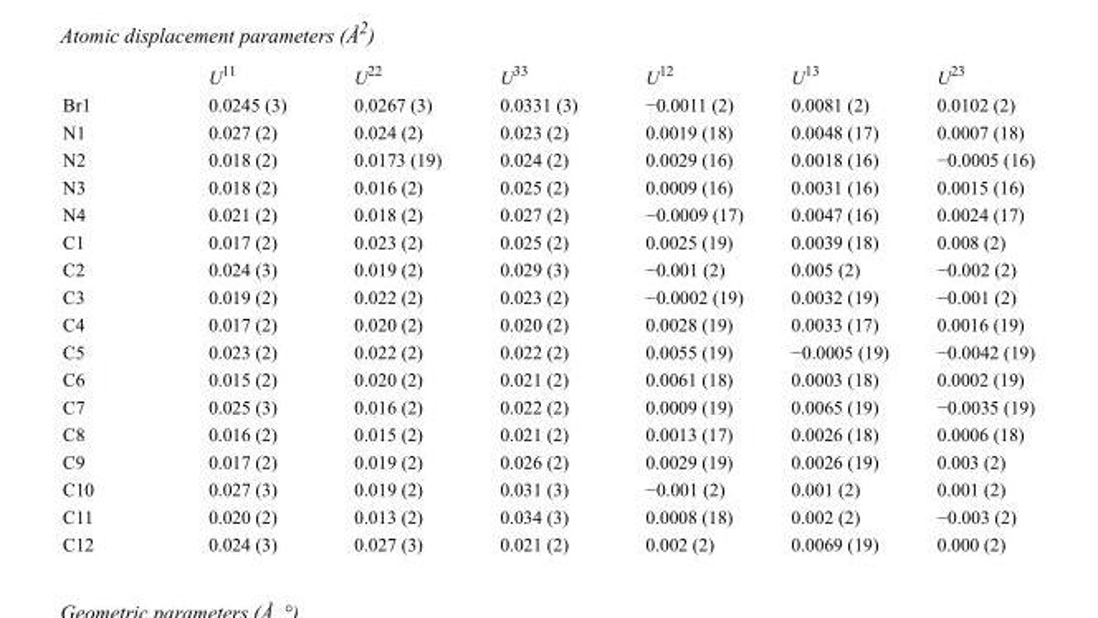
<table><thead><tr><td></td><td>U<sup>11</sup></td><td>U<sup>22</sup></td><td>U<sup>33</sup></td><td>U<sup>12</sup></td><td>U<sup>13</sup></td><td>U<sup>23</sup></td></tr></thead><tbody><tr><td>Br1</td><td>0.0245 (3)</td><td>0.0267 (3)</td><td>0.0331 (3)</td><td>−0.0011 (2)</td><td>0.0081 (2)</td><td>0.0102 (2)</td></tr><tr><td>N1</td><td>0.027 (2)</td><td>0.024 (2)</td><td>0.023 (2)</td><td>0.0019 (18)</td><td>0.0048 (17)</td><td>0.0007 (18)</td></tr><tr><td>N2</td><td>0.018 (2)</td><td>0.0173 (19)</td><td>0.024 (2)</td><td>0.0029 (16)</td><td>0.0018 (16)</td><td>−0.0005 (16)</td></tr><tr><td>N3</td><td>0.018 (2)</td><td>0.016 (2)</td><td>0.025 (2)</td><td>0.0009 (16)</td><td>0.0031 (16)</td><td>0.0015 (16)</td></tr><tr><td>N4</td><td>0.021 (2)</td><td>0.018 (2)</td><td>0.027 (2)</td><td>−0.0009 (17)</td><td>0.0047 (16)</td><td>0.0024 (17)</td></tr><tr><td>C1</td><td>0.017 (2)</td><td>0.023 (2)</td><td>0.025 (2)</td><td>0.0025 (19)</td><td>0.0039 (18)</td><td>0.008 (2)</td></tr><tr><td>C2</td><td>0.024 (3)</td><td>0.019 (2)</td><td>0.029 (3)</td><td>−0.001 (2)</td><td>0.005 (2)</td><td>−0.002 (2)</td></tr><tr><td>C3</td><td>0.019 (2)</td><td>0.022 (2)</td><td>0.023 (2)</td><td>−0.0002 (19)</td><td>0.0032 (19)</td><td>−0.001 (2)</td></tr><tr><td>C4</td><td>0.017 (2)</td><td>0.020 (2)</td><td>0.020 (2)</td><td>0.0028 (19)</td><td>0.0033 (17)</td><td>0.0016 (19)</td></tr><tr><td>C5</td><td>0.023 (2)</td><td>0.022 (2)</td><td>0.022 (2)</td><td>0.0055 (19)</td><td>−0.0005 (19)</td><td>−0.0042 (19)</td></tr><tr><td>C6</td><td>0.015 (2)</td><td>0.020 (2)</td><td>0.021 (2)</td><td>0.0061 (18)</td><td>0.0003 (18)</td><td>0.0002 (19)</td></tr><tr><td>C7</td><td>0.025 (3)</td><td>0.016 (2)</td><td>0.022 (2)</td><td>0.0009 (19)</td><td>0.0065 (19)</td><td>−0.0035 (19)</td></tr><tr><td>C8</td><td>0.016 (2)</td><td>0.015 (2)</td><td>0.021 (2)</td><td>0.0013 (17)</td><td>0.0026 (18)</td><td>0.0006 (18)</td></tr><tr><td>C9</td><td>0.017 (2)</td><td>0.019 (2)</td><td>0.026 (2)</td><td>0.0029 (19)</td><td>0.0026 (19)</td><td>0.003 (2)</td></tr><tr><td>C10</td><td>0.027 (3)</td><td>0.019 (2)</td><td>0.031 (3)</td><td>−0.001 (2)</td><td>0.001 (2)</td><td>0.001 (2)</td></tr><tr><td>C11</td><td>0.020 (2)</td><td>0.013 (2)</td><td>0.034 (3)</td><td>0.0008 (18)</td><td>0.002 (2)</td><td>−0.003 (2)</td></tr><tr><td>C12</td><td>0.024 (3)</td><td>0.027 (3)</td><td>0.021 (2)</td><td>0.002 (2)</td><td>0.0069 (19)</td><td>0.000 (2)</td></tr></tbody></table>